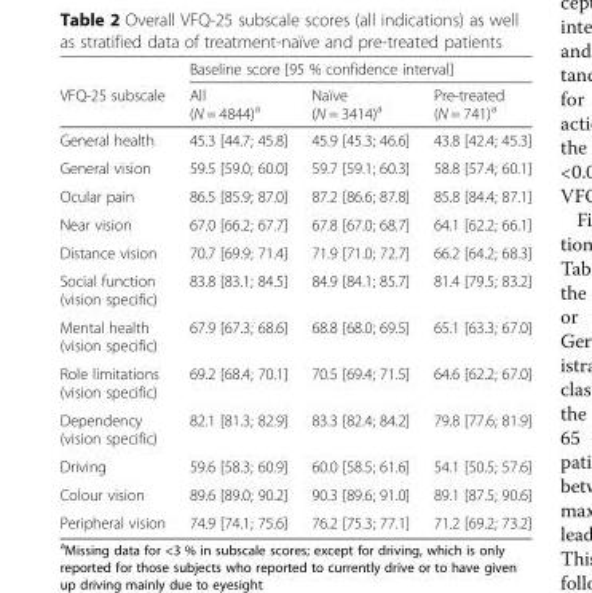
<table><thead><tr><td rowspan="2">VFQ-25 subscale</td><td colspan="3">Baseline score [95 % confidence interval]</td></tr><tr><td>All (N = 4844)<sup>a</sup></td><td>Naïve (N = 3414)<sup>a</sup></td><td>Pre-treated (N = 741)<sup>a</sup></td></tr></thead><tbody><tr><td>General health</td><td>45.3 [44.7; 45.8]</td><td>45.9 [45.3; 46.6]</td><td>43.8 [42.4; 45.3]</td></tr><tr><td>General vision</td><td>59.5 [59.0; 60.0]</td><td>59.7 [59.1; 60.3]</td><td>58.8 [57.4; 60.1]</td></tr><tr><td>Ocular pain</td><td>86.5 [85.9; 87.0]</td><td>87.2 [86.6; 87.8]</td><td>85.8 [84.4; 87.1]</td></tr><tr><td>Near vision</td><td>67.0 [66.2; 67.7]</td><td>67.8 [67.0; 68.7]</td><td>64.1 [62.2; 66.1]</td></tr><tr><td>Distance vision</td><td>70.7 [69.9; 71.4]</td><td>71.9 [71.0; 72.7]</td><td>66.2 [64.2; 68.3]</td></tr><tr><td>Social function (vision specific)</td><td>83.8 [83.1; 84.5]</td><td>84.9 [84.1; 85.7]</td><td>81.4 [79.5; 83.2]</td></tr><tr><td>Mental health (vision specific)</td><td>67.9 [67.3; 68.6]</td><td>68.8 [68.0; 69.5]</td><td>65.1 [63.3; 67.0]</td></tr><tr><td>Role limitations (vision specific)</td><td>69.2 [68.4; 70.1]</td><td>70.5 [69.4; 71.5]</td><td>64.6 [62.2; 67.0]</td></tr><tr><td>Dependency (vision specific)</td><td>82.1 [81.3; 82.9]</td><td>83.3 [82.4; 84.2]</td><td>79.8 [77.6; 81.9]</td></tr><tr><td>Driving</td><td>59.6 [58.3; 60.9]</td><td>60.0 [58.5; 61.6]</td><td>54.1 [50.5; 57.6]</td></tr><tr><td>Colour vision</td><td>89.6 [89.0; 90.2]</td><td>90.3 [89.6; 91.0]</td><td>89.1 [87.5; 90.6]</td></tr><tr><td>Peripheral vision</td><td>74.9 [74.1; 75.6]</td><td>76.2 [75.3; 77.1]</td><td>71.2 [69.2; 73.2]</td></tr></tbody></table>